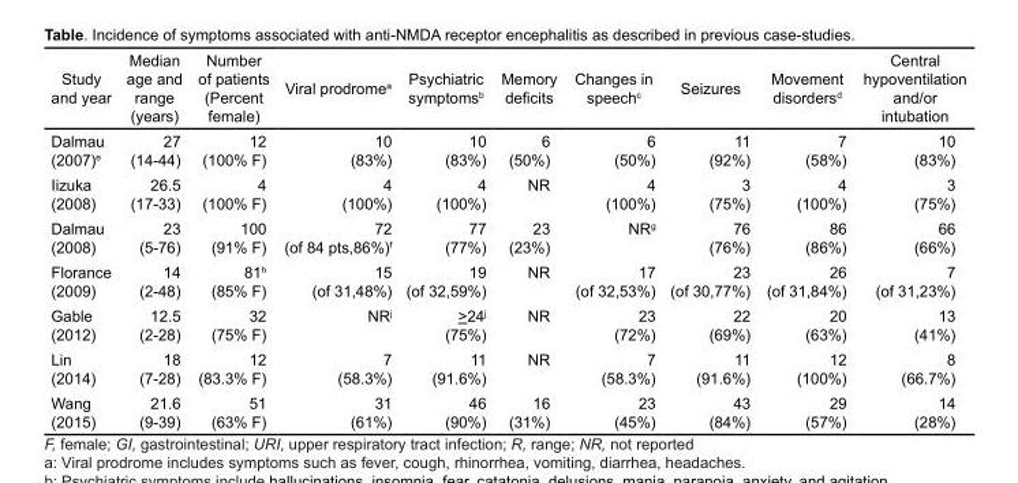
<table><thead><tr><td>Study and year</td><td>Median age and range (years)</td><td>Number of patients (Percent female)</td><td>Viral prodrome<sup>a</sup></td><td>Psychiatric symptoms<sup>b</sup></td><td>Memory deficits</td><td>Changes in speech<sup>c</sup></td><td>Seizures</td><td>Movement disorders<sup>d</sup></td><td>Central hypoventilation and/or intubation</td></tr></thead><tbody><tr><td>Dalmau (2007)<sup>e</sup></td><td>27 (14-44)</td><td>12 (100% F)</td><td>10 (83%)</td><td>10 (83%)</td><td>6 (50%)</td><td>6 (50%)</td><td>11 (92%)</td><td>7 (58%)</td><td>10 (83%)</td></tr><tr><td>Iizuka (2008)</td><td>26.5 (17-33)</td><td>4 (100% F)</td><td>4 (100%)</td><td>4 (100%)</td><td>NR</td><td>4 (100%)</td><td>3 (75%)</td><td>4 (100%)</td><td>3 (75%)</td></tr><tr><td>Dalmau (2008)</td><td>23 (5-76)</td><td>100 (91% F)</td><td>72 (of 84 pts,86%)<sup>f</sup></td><td>77 (77%)</td><td>23 (23%)</td><td>NR<sup>g</sup></td><td>76 (76%)</td><td>86 (86%)</td><td>66 (66%)</td></tr><tr><td>Florance (2009)</td><td>14 (2-48)</td><td>81<sup>h</sup> (85% F)</td><td>15 (of 31,48%)</td><td>19 (of 32,59%)</td><td>NR</td><td>17 (of 32,53%)</td><td>23 (of 30,77%)</td><td>26 (of 31,84%)</td><td>7 (of 31,23%)</td></tr><tr><td>Gable (2012)</td><td>12.5 (2-28)</td><td>32 (75% F)</td><td>NR<sup>j</sup></td><td>&gt;24j (75%)</td><td>NR</td><td>23 (72%)</td><td>22 (69%)</td><td>20 (63%)</td><td>13 (41%)</td></tr><tr><td>Lin (2014)</td><td>18 (7-28)</td><td>12 (83.3% F)</td><td>7 (58.3%)</td><td>11 (91.6%)</td><td>NR</td><td>7 (58.3%)</td><td>11 (91.6%)</td><td>12 (100%)</td><td>8 (66.7%)</td></tr><tr><td>Wang (2015)</td><td>21.6 (9-39)</td><td>51 (63% F)</td><td>31 (61%)</td><td>46 (90%)</td><td>16 (31%)</td><td>23 (45%)</td><td>43 (84%)</td><td>29 (57%)</td><td>14 (28%)</td></tr></tbody></table>